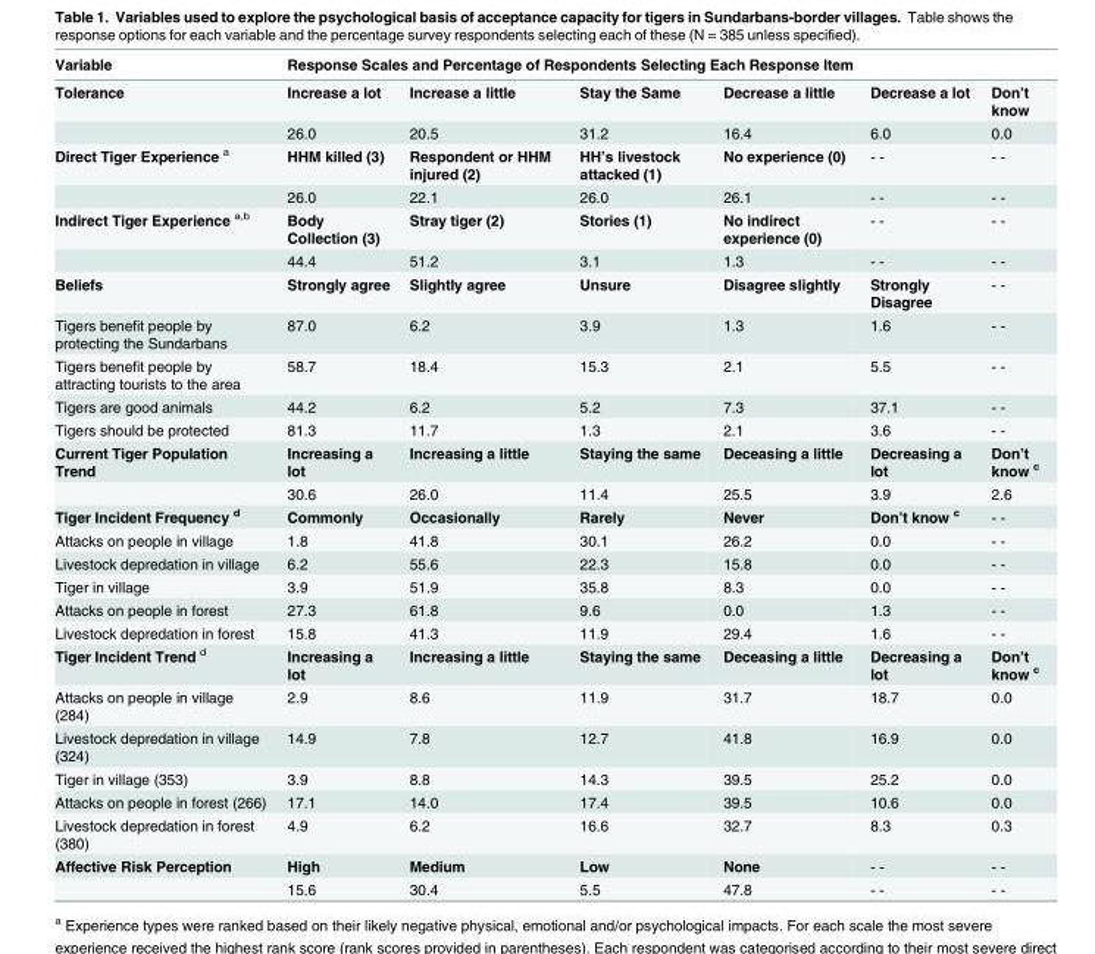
<table><thead><tr><td rowspan="2">Variable Tolerance</td><td colspan="6">Response Scales and Percentage of Respondents Selecting Each Response Item</td></tr><tr><td>Increase a lot</td><td>Increase a little</td><td>Stay the Same</td><td>Decrease a little</td><td>Decrease a lot</td><td>Don’t know</td></tr></thead><tbody><tr><td></td><td>26.0</td><td>20.5</td><td>31.2</td><td>16.4</td><td>6.0</td><td>0.0</td></tr><tr><td rowspan="2">Direct Tiger Experience <sup>a</sup></td><td>HHM killed (3)</td><td>Respondent or HHM injured (2)</td><td>HH’s livestock attacked (1)</td><td>No experience (0)</td><td>- -</td><td>- -</td></tr><tr><td>26.0</td><td>22.1</td><td>26.0</td><td>26.1</td><td>- -</td><td>- -</td></tr><tr><td rowspan="2">Indirect Tiger Experience <sup>a,b</sup></td><td>Body Collection (3)</td><td>Stray tiger (2)</td><td>Stories (1)</td><td>No indirect experience (0)</td><td>- -</td><td>- -</td></tr><tr><td>44.4</td><td>51.2</td><td>3.1</td><td>1.3</td><td>- -</td><td>- -</td></tr><tr><td>Beliefs</td><td>Strongly agree</td><td>Slightly agree</td><td>Unsure</td><td>Disagree slightly</td><td>Strongly Disagree</td><td>- -</td></tr><tr><td>Tigers benefit people by protecting the Sundarbans</td><td>87.0</td><td>6.2</td><td>3.9</td><td>1.3</td><td>1.6</td><td>- -</td></tr><tr><td>Tigers benefit people by attracting tourists to the area</td><td>58.7</td><td>18.4</td><td>15.3</td><td>2.1</td><td>5.5</td><td>- -</td></tr><tr><td>Tigers are good animals</td><td>44.2</td><td>6.2</td><td>5.2</td><td>7.3</td><td>37.1</td><td>- -</td></tr><tr><td>Tigers should be protected</td><td>81.3</td><td>11.7</td><td>1.3</td><td>2.1</td><td>3.6</td><td>- -</td></tr><tr><td rowspan="2">Current Tiger Population Trend</td><td>Increasing a lot</td><td>Increasing a little</td><td>Staying the same</td><td>Deceasing a little</td><td>Decreasing a lot</td><td>Don’t know <sup>c</sup></td></tr><tr><td>30.6</td><td>26.0</td><td>11.4</td><td>25.5</td><td>3.9</td><td>2.6</td></tr><tr><td>Tiger Incident Frequency <sup>d</sup></td><td>Commonly</td><td>Occasionally</td><td>Rarely</td><td>Never</td><td>Don’t know <sup>c</sup></td><td>- -</td></tr><tr><td>Attacks on people in village</td><td>1.8</td><td>41.8</td><td>30.1</td><td>26.2</td><td>0.0</td><td>- -</td></tr><tr><td>Livestock depredation in village</td><td>6.2</td><td>55.6</td><td>22.3</td><td>15.8</td><td>0.0</td><td>- -</td></tr><tr><td>Tiger in village</td><td>3.9</td><td>51.9</td><td>35.8</td><td>8.3</td><td>0.0</td><td>- -</td></tr><tr><td>Attacks on people in forest</td><td>27.3</td><td>61.8</td><td>9.6</td><td>0.0</td><td>1.3</td><td>- -</td></tr><tr><td>Livestock depredation in forest</td><td>15.8</td><td>41.3</td><td>11.9</td><td>29.4</td><td>1.6</td><td>- -</td></tr><tr><td>Tiger Incident Trend <sup>d</sup></td><td>Increasing a lot</td><td>Increasing a little</td><td>Staying the same</td><td>Deceasing a little</td><td>Decreasing a lot</td><td>Don’t know <sup>c</sup></td></tr><tr><td>Attacks on people in village (284)</td><td>2.9</td><td>8.6</td><td>11.9</td><td>31.7</td><td>18.7</td><td>0.0</td></tr><tr><td>Livestock depredation in village (324)</td><td>14.9</td><td>7.8</td><td>12.7</td><td>41.8</td><td>16.9</td><td>0.0</td></tr><tr><td>Tiger in village (353)</td><td>3.9</td><td>8.8</td><td>14.3</td><td>39.5</td><td>25.2</td><td>0.0</td></tr><tr><td>Attacks on people in forest (266)</td><td>17.1</td><td>14.0</td><td>17.4</td><td>39.5</td><td>10.6</td><td>0.0</td></tr><tr><td>Livestock depredation in forest (380)</td><td>4.9</td><td>6.2</td><td>16.6</td><td>32.7</td><td>8.3</td><td>0.3</td></tr><tr><td rowspan="2">Affective Risk Perception</td><td>High</td><td>Medium</td><td>Low</td><td>None</td><td>- -</td><td>- -</td></tr><tr><td>15.6</td><td>30.4</td><td>5.5</td><td>47.8</td><td>- -</td><td>- -</td></tr></tbody></table>